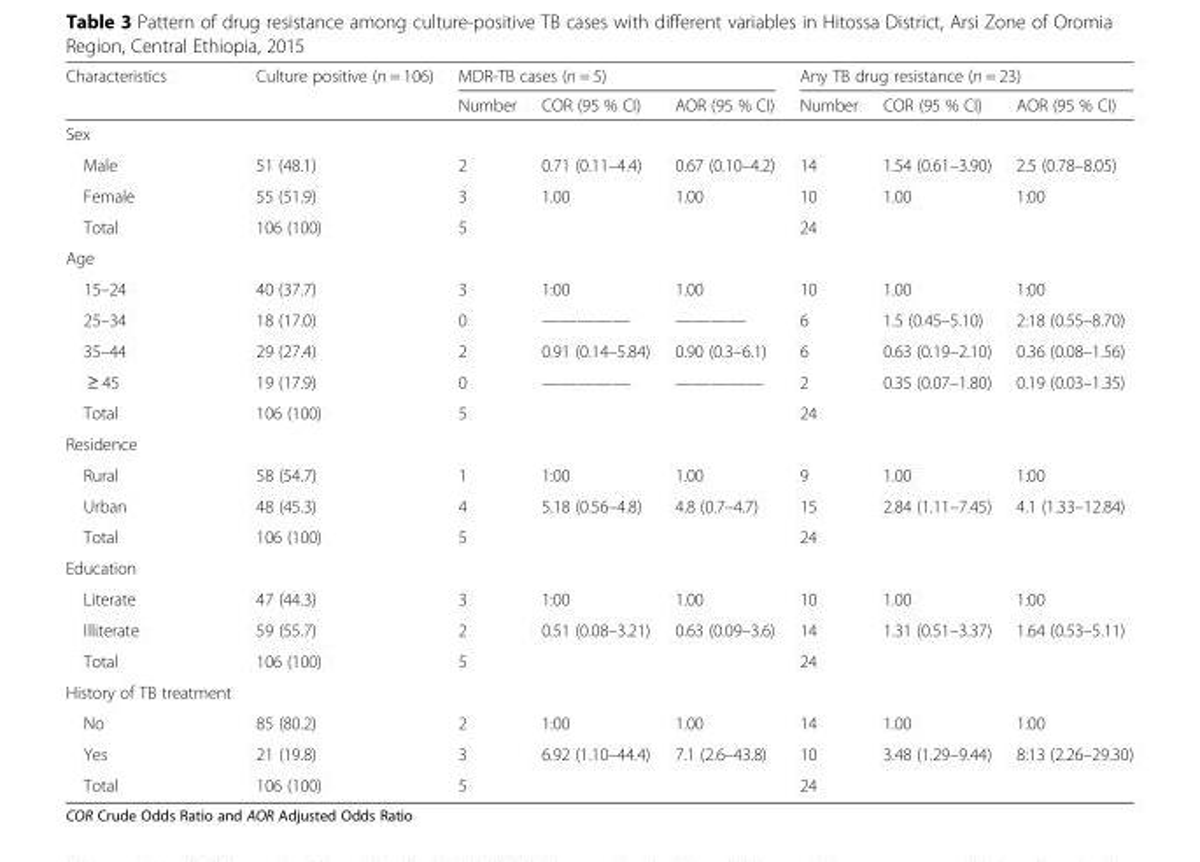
<table><thead><tr><td rowspan="2">Characteristics</td><td rowspan="2">Culture positive (n = 106)</td><td colspan="3">MDR-TB cases (n = 5)</td><td colspan="3">Any TB drug resistance (n = 23)</td></tr><tr><td>Number</td><td>COR (95 % CI)</td><td>AOR (95 % CI)</td><td>Number</td><td>COR (95 % CI)</td><td>AOR (95 % CI)</td></tr></thead><tbody><tr><td colspan="8">Sex</td></tr><tr><td>Male</td><td>51 (48.1)</td><td>2</td><td>0.71 (0.11–4.4)</td><td>0.67 (0.10–4.2)</td><td>14</td><td>1.54 (0.61–3.90)</td><td>2.5 (0.78–8.05)</td></tr><tr><td>Female</td><td>55 (51.9)</td><td>3</td><td>1.00</td><td>1.00</td><td>10</td><td>1.00</td><td>1:00</td></tr><tr><td>Total</td><td>106 (100)</td><td>5</td><td></td><td></td><td>24</td><td></td><td></td></tr><tr><td colspan="8">Age</td></tr><tr><td>15–24</td><td>40 (37.7)</td><td>3</td><td>1:00</td><td>1.00</td><td>10</td><td>1.00</td><td>1:00</td></tr><tr><td>25–34</td><td>18 (17.0)</td><td>0</td><td>—————</td><td>————</td><td>6</td><td>1.5 (0.45–5.10)</td><td>2:18 (0.55–8.70)</td></tr><tr><td>35–44</td><td>29 (27.4)</td><td>2</td><td>0.91 (0.14–5.84)</td><td>0.90 (0.3–6.1)</td><td>6</td><td>0.63 (0.19–2.10)</td><td>0.36 (0.08–1.56)</td></tr><tr><td>≥ 45</td><td>19 (17.9)</td><td>0</td><td>—————</td><td>—————</td><td>2</td><td>0.35 (0.07–1.80)</td><td>0.19 (0.03–1.35)</td></tr><tr><td>Total</td><td>106 (100)</td><td>5</td><td></td><td></td><td>24</td><td></td><td></td></tr><tr><td colspan="8">Residence</td></tr><tr><td>Rural</td><td>58 (54.7)</td><td>1</td><td>1:00</td><td>1.00</td><td>9</td><td>1.00</td><td>1:00</td></tr><tr><td>Urban</td><td>48 (45.3)</td><td>4</td><td>5.18 (0.56–4.8)</td><td>4.8 (0.7–4.7)</td><td>15</td><td>2.84 (1.11–7.45)</td><td>4.1 (1.33–12.84)</td></tr><tr><td>Total</td><td>106 (100)</td><td>5</td><td></td><td></td><td>24</td><td></td><td></td></tr><tr><td colspan="8">Education</td></tr><tr><td>Literate</td><td>47 (44.3)</td><td>3</td><td>1:00</td><td>1.00</td><td>10</td><td>1.00</td><td>1:00</td></tr><tr><td>Illiterate</td><td>59 (55.7)</td><td>2</td><td>0.51 (0.08–3.21)</td><td>0.63 (0.09–3.6)</td><td>14</td><td>1.31 (0.51–3.37)</td><td>1.64 (0.53–5.11)</td></tr><tr><td>Total</td><td>106 (100)</td><td>5</td><td></td><td></td><td>24</td><td></td><td></td></tr><tr><td colspan="8">History of TB treatment</td></tr><tr><td>No</td><td>85 (80.2)</td><td>2</td><td>1:00</td><td>1.00</td><td>14</td><td>1.00</td><td>1:00</td></tr><tr><td>Yes</td><td>21 (19.8)</td><td>3</td><td>6.92 (1.10–44.4)</td><td>7.1 (2.6–43.8)</td><td>10</td><td>3.48 (1.29–9.44)</td><td>8:13 (2.26–29.30)</td></tr><tr><td>Total</td><td>106 (100)</td><td>5</td><td></td><td></td><td>24</td><td></td><td></td></tr></tbody></table>